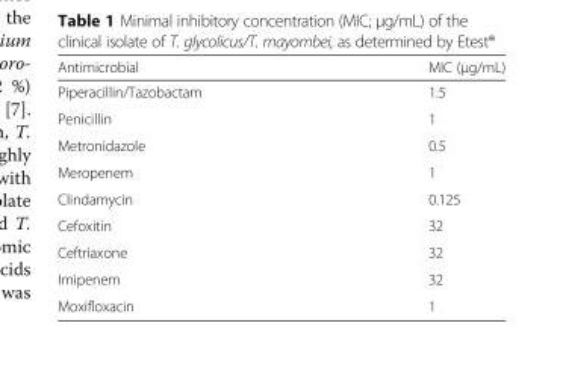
<table><thead><tr><td>Antimicrobial</td><td>MIC (μg/mL)</td></tr></thead><tbody><tr><td>Piperacillin/Tazobactam</td><td>1.5</td></tr><tr><td>Penicillin</td><td>1</td></tr><tr><td>Metronidazole</td><td>0.5</td></tr><tr><td>Meropenem</td><td>1</td></tr><tr><td>Clindamycin</td><td>0.125</td></tr><tr><td>Cefoxitin</td><td>32</td></tr><tr><td>Ceftriaxone</td><td>32</td></tr><tr><td>Imipenem</td><td>32</td></tr><tr><td>Moxifloxacin</td><td>1</td></tr></tbody></table>